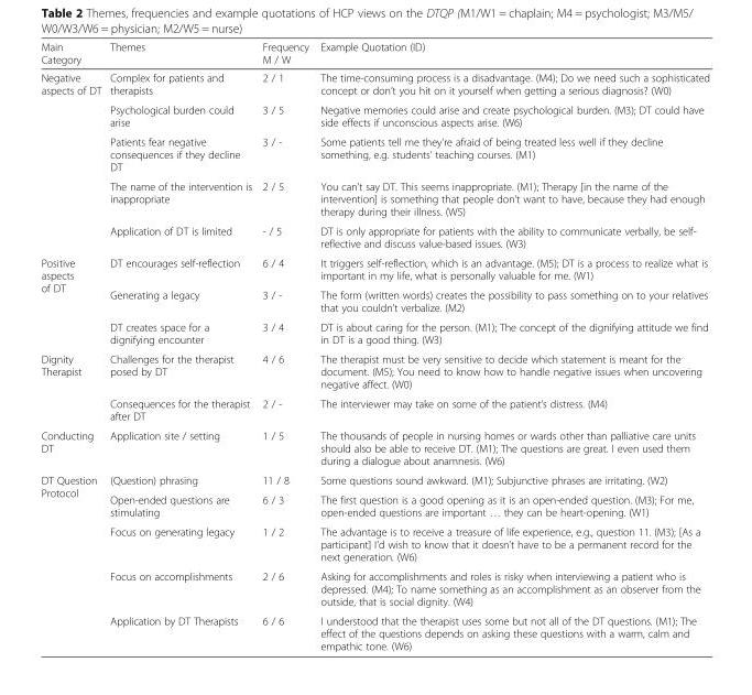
<table><thead><tr><td>Main Category</td><td>Themes</td><td>Frequency M / W</td><td>Example Quotation (ID)</td></tr></thead><tbody><tr><td rowspan="5">Negative aspects of DT</td><td>Complex for patients and therapists</td><td>2 / 1</td><td>The time-consuming process is a disadvantage. (M4); Do we need such a sophisticated concept or don’t you hit on it yourself when getting a serious diagnosis? (W0)</td></tr><tr><td>Psychological burden could arise</td><td>3 / 5</td><td>Negative memories could arise and create psychological burden. (M3); DT could have side effects if unconscious aspects arise. (W6)</td></tr><tr><td>Patients fear negative consequences if they decline DT</td><td>3 / -</td><td>Some patients tell me they’re afraid of being treated less well if they decline something, e.g. students’ teaching courses. (M1)</td></tr><tr><td>The name of the intervention is inappropriate</td><td>2 / 5</td><td>You can’t say DT. This seems inappropriate. (M1); Therapy [in the name of the intervention] is something that people don’t want to have, because they had enough therapy during their illness. (W5)</td></tr><tr><td>Application of DT is limited</td><td>- / 5</td><td>DT is only appropriate for patients with the ability to communicate verbally, be self- reflective and discuss value-based issues. (W3)</td></tr><tr><td rowspan="3">Positive aspects of DT</td><td>DT encourages self-reflection</td><td>6 / 4</td><td>It triggers self-reflection, which is an advantage. (M5); DT is a process to realize what is important in my life, what is personally valuable for me. (W1)</td></tr><tr><td>Generating a legacy</td><td>3 / -</td><td>The form (written words) creates the possibility to pass something on to your relatives that you couldn’t verbalize. (M2)</td></tr><tr><td>DT creates space for a dignifying encounter</td><td>3 / 4</td><td>DT is about caring for the person. (M1); The concept of the dignifying attitude we find in DT is a good thing. (W3)</td></tr><tr><td rowspan="2">Dignity Therapist</td><td>Challenges for the therapist posed by DT</td><td>4 / 6</td><td>The therapist must be very sensitive to decide which statement is meant for the document. (M5); You need to know how to handle negative issues when uncovering negative affect. (W0)</td></tr><tr><td>Consequences for the therapist after DT</td><td>2 / -</td><td>The interviewer may take on some of the patient’s distress. (M4)</td></tr><tr><td>Conducting DT</td><td>Application site / setting</td><td>1 / 5</td><td>The thousands of people in nursing homes or wards other than palliative care units should also be able to receive DT. (M1); The questions are great. I even used them during a dialogue about anamnesis. (W6)</td></tr><tr><td rowspan="5">DT Question Protocol</td><td>(Question) phrasing</td><td>11 / 8</td><td>Some questions sound awkward. (M1); Subjunctive phrases are irritating. (W2)</td></tr><tr><td>Open-ended questions are stimulating</td><td>6 / 3</td><td>The first question is a good opening as it is an open-ended question. (M3); For me, open-ended questions are important … they can be heart-opening. (W1)</td></tr><tr><td>Focus on generating legacy</td><td>1 / 2</td><td>The advantage is to receive a treasure of life experience, e.g., question 11. (M3); [As a participant] I’d wish to know that it doesn’t have to be a permanent record for the next generation. (W6)</td></tr><tr><td>Focus on accomplishments</td><td>2 / 6</td><td>Asking for accomplishments and roles is risky when interviewing a patient who is depressed. (M4); To name something as an accomplishment as an observer from the outside, that is social dignity. (W4)</td></tr><tr><td>Application by DT Therapists</td><td>6 / 6</td><td>I understood that the therapist uses some but not all of the DT questions. (M1); The effect of the questions depends on asking these questions with a warm, calm and empathic tone. (W6)</td></tr></tbody></table>